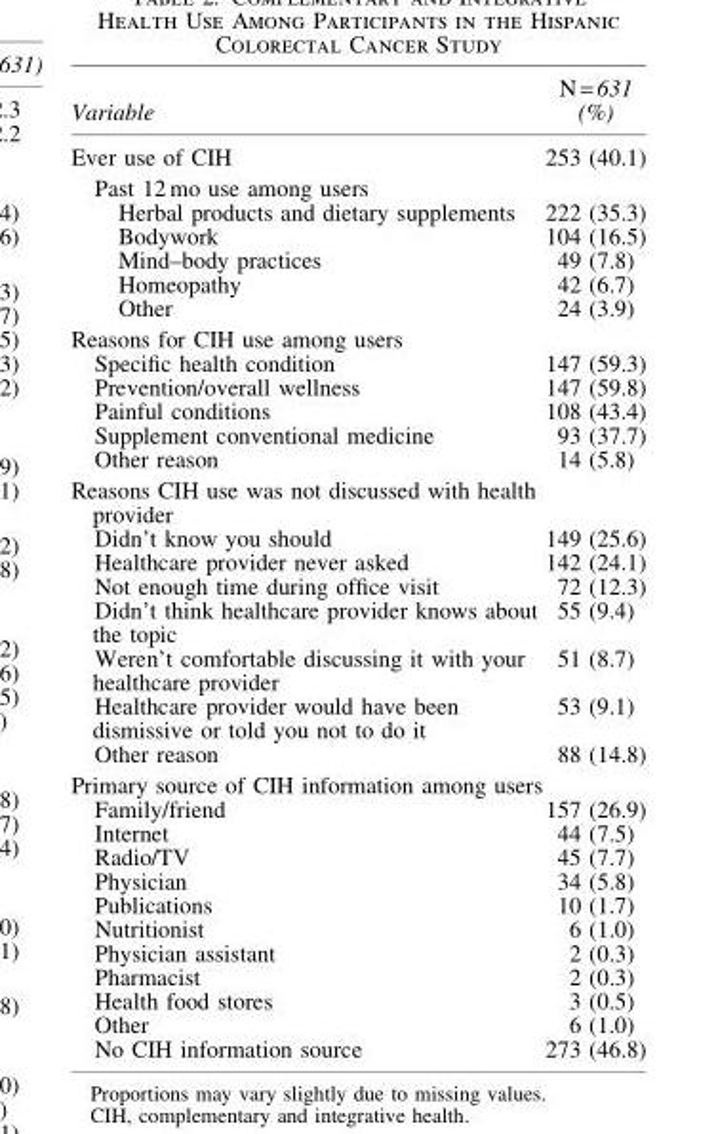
<table><thead><tr><td>Variable</td><td>N = 631 (%)</td></tr></thead><tbody><tr><td>Ever use of CIH</td><td>253 (40.1)</td></tr><tr><td colspan="2">Past 12 mo use among users</td></tr><tr><td>Herbal products and dietary supplements</td><td>222 (35.3)</td></tr><tr><td>Bodywork</td><td>104 (16.5)</td></tr><tr><td>Mind–body practices</td><td>49 (7.8)</td></tr><tr><td>Homeopathy</td><td>42 (6.7)</td></tr><tr><td>Other</td><td>24 (3.9)</td></tr><tr><td colspan="2">Reasons for CIH use among users</td></tr><tr><td>Specific health condition</td><td>147 (59.3)</td></tr><tr><td>Prevention/overall wellness</td><td>147 (59.8)</td></tr><tr><td>Painful conditions</td><td>108 (43.4)</td></tr><tr><td>Supplement conventional medicine</td><td>93 (37.7)</td></tr><tr><td>Other reason</td><td>14 (5.8)</td></tr><tr><td colspan="2">Reasons CIH use was not discussed with health provider</td></tr><tr><td>Didn’t know you should</td><td>149 (25.6)</td></tr><tr><td>Healthcare provider never asked</td><td>142 (24.1)</td></tr><tr><td>Not enough time during office visit</td><td>72 (12.3)</td></tr><tr><td>Didn’t think healthcare provider knows about the topic</td><td>55 (9.4)</td></tr><tr><td>Weren’t comfortable discussing it with your healthcare provider</td><td>51 (8.7)</td></tr><tr><td>Healthcare provider would have been dismissive or told you not to do it</td><td>53 (9.1)</td></tr><tr><td>Other reason</td><td>88 (14.8)</td></tr><tr><td colspan="2">Primary source of CIH information among users</td></tr><tr><td>Family/friend</td><td>157 (26.9)</td></tr><tr><td>Internet</td><td>44 (7.5)</td></tr><tr><td>Radio/TV</td><td>45 (7.7)</td></tr><tr><td>Physician</td><td>34 (5.8)</td></tr><tr><td>Publications</td><td>10 (1.7)</td></tr><tr><td>Nutritionist</td><td>6 (1.0)</td></tr><tr><td>Physician assistant</td><td>2 (0.3)</td></tr><tr><td>Pharmacist</td><td>2 (0.3)</td></tr><tr><td>Health food stores</td><td>3 (0.5)</td></tr><tr><td>Other</td><td>6 (1.0)</td></tr><tr><td>No CIH information source</td><td>273 (46.8)</td></tr></tbody></table>